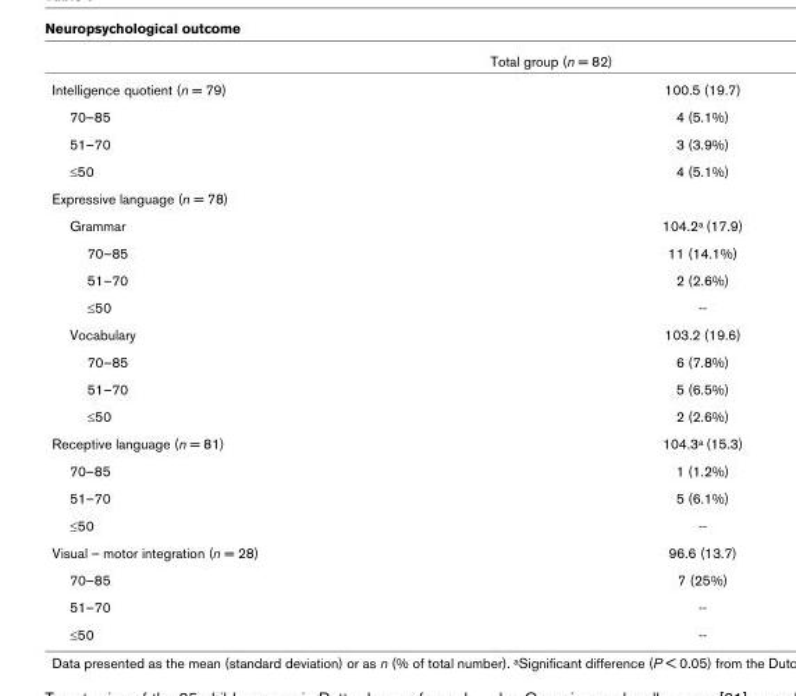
<table><thead><tr><td></td><td>Total group (n = 82)</td></tr></thead><tbody><tr><td>Intelligence quotient (n = 79)</td><td>100.5 (19.7)</td></tr><tr><td>70–85</td><td>4 (5.1%)</td></tr><tr><td>51–70</td><td>3 (3.9%)</td></tr><tr><td>≤50</td><td>4 (5.1%)</td></tr><tr><td colspan="2">Expressive language (n = 78)</td></tr><tr><td>Grammar</td><td>104.2a (17.9)</td></tr><tr><td>70–85</td><td>11 (14.1%)</td></tr><tr><td>51–70</td><td>2 (2.6%)</td></tr><tr><td>≤50</td><td>--</td></tr><tr><td>Vocabulary</td><td>103.2 (19.6)</td></tr><tr><td>70–85</td><td>6 (7.8%)</td></tr><tr><td>51–70</td><td>5 (6.5%)</td></tr><tr><td>≤50</td><td>2 (2.6%)</td></tr><tr><td>Receptive language (n = 81)</td><td>104.3a (15.3)</td></tr><tr><td>70–85</td><td>1 (1.2%)</td></tr><tr><td>51–70</td><td>5 (6.1%)</td></tr><tr><td>≤50</td><td>--</td></tr><tr><td>Visual – motor integration (n = 28)</td><td>96.6 (13.7)</td></tr><tr><td>70–85</td><td>7 (25%)</td></tr><tr><td>51–70</td><td>--</td></tr><tr><td>≤50</td><td>--</td></tr></tbody></table>